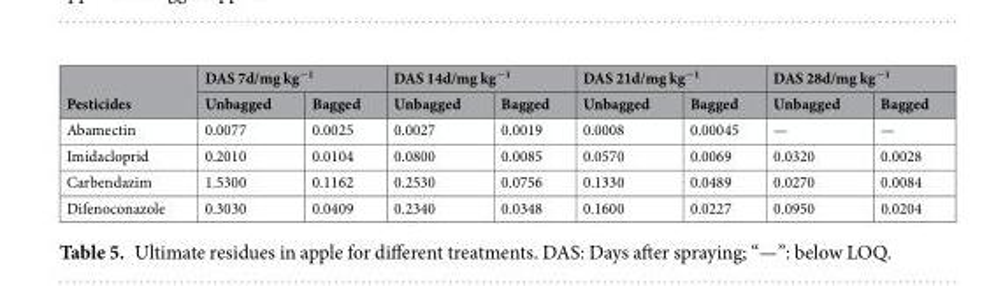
<table><thead><tr><td rowspan="2">Pesticides</td><td colspan="2">DAS 7d/mg kg<sup>−1</sup></td><td colspan="2">DAS 14d/mg kg<sup>−1</sup></td><td colspan="2">DAS 21d/mg kg<sup>−1</sup></td><td colspan="2">DAS 28d/mg kg<sup>−1</sup></td></tr><tr><td>Unbagged</td><td>Bagged</td><td>Unbagged</td><td>Bagged</td><td>Unbagged</td><td>Bagged</td><td>Unbagged</td><td>Bagged</td></tr></thead><tbody><tr><td>Abamectin</td><td>0.0077</td><td>0.0025</td><td>0.0027</td><td>0.0019</td><td>0.0008</td><td>0.00045</td><td>—</td><td>—</td></tr><tr><td>Imidacloprid</td><td>0.2010</td><td>0.0104</td><td>0.0800</td><td>0.0085</td><td>0.0570</td><td>0.0069</td><td>0.0320</td><td>0.0028</td></tr><tr><td>Carbendazim</td><td>1.5300</td><td>0.1162</td><td>0.2530</td><td>0.0756</td><td>0.1330</td><td>0.0489</td><td>0.0270</td><td>0.0084</td></tr><tr><td>Difenoconazole</td><td>0.3030</td><td>0.0409</td><td>0.2340</td><td>0.0348</td><td>0.1600</td><td>0.0227</td><td>0.0950</td><td>0.0204</td></tr></tbody></table>